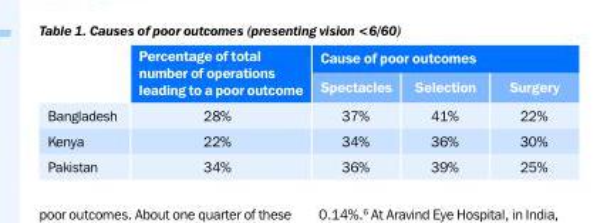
<table><thead><tr><td rowspan="2"></td><td rowspan="2">Percentage of total number of operations leading to a poor outcome</td><td colspan="3">Cause of poor outcomes</td></tr><tr><td>Spectacles</td><td>Selection</td><td>Surgery</td></tr></thead><tbody><tr><td>Bangladesh</td><td>28%</td><td>37%</td><td>41%</td><td>22%</td></tr><tr><td>Kenya</td><td>22%</td><td>34%</td><td>36%</td><td>30%</td></tr><tr><td>Pakistan</td><td>34%</td><td>36%</td><td>39%</td><td>25%</td></tr></tbody></table>